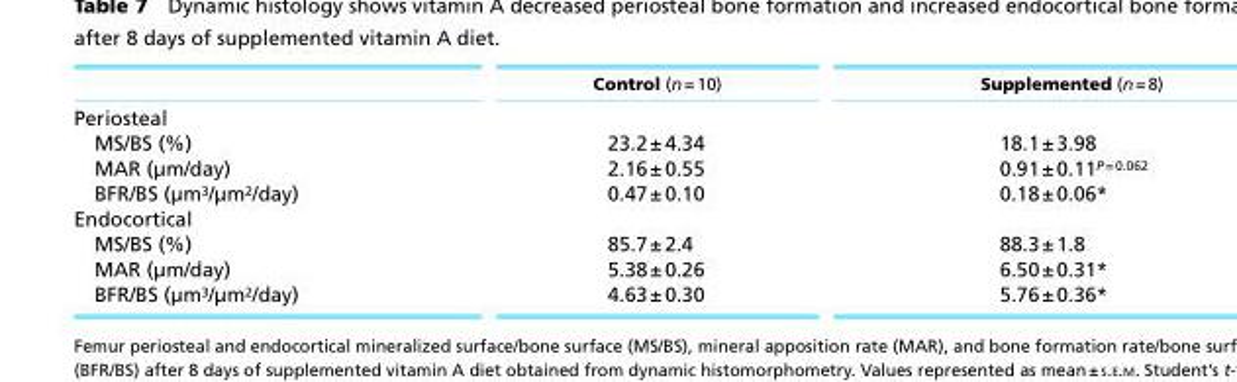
<table><thead><tr><td></td><td>Control (n = 10)</td><td>Supplemented (n = 8)</td></tr></thead><tbody><tr><td colspan="3">Periosteal</td></tr><tr><td>MS/BS (%)</td><td>23.2 ± 4.34</td><td>18.1 ± 3.98</td></tr><tr><td>MAR (µm/day)</td><td>2.16 ± 0.55</td><td>0.91 ± 0.11P <sup>= 0.062</sup></td></tr><tr><td>BFR/BS (µm<sup>3</sup>/µm<sup>2</sup>/day)</td><td>0.47 ± 0.10</td><td>0.18 ± 0.06*</td></tr><tr><td colspan="3">Endocortical</td></tr><tr><td>MS/BS (%)</td><td>85.7 ± 2.4</td><td>88.3 ± 1.8</td></tr><tr><td>MAR (µm/day)</td><td>5.38 ± 0.26</td><td>6.50 ± 0.31*</td></tr><tr><td>BFR/BS (µm<sup>3</sup>/µm<sup>2</sup>/day)</td><td>4.63 ± 0.30</td><td>5.76 ± 0.36*</td></tr></tbody></table>